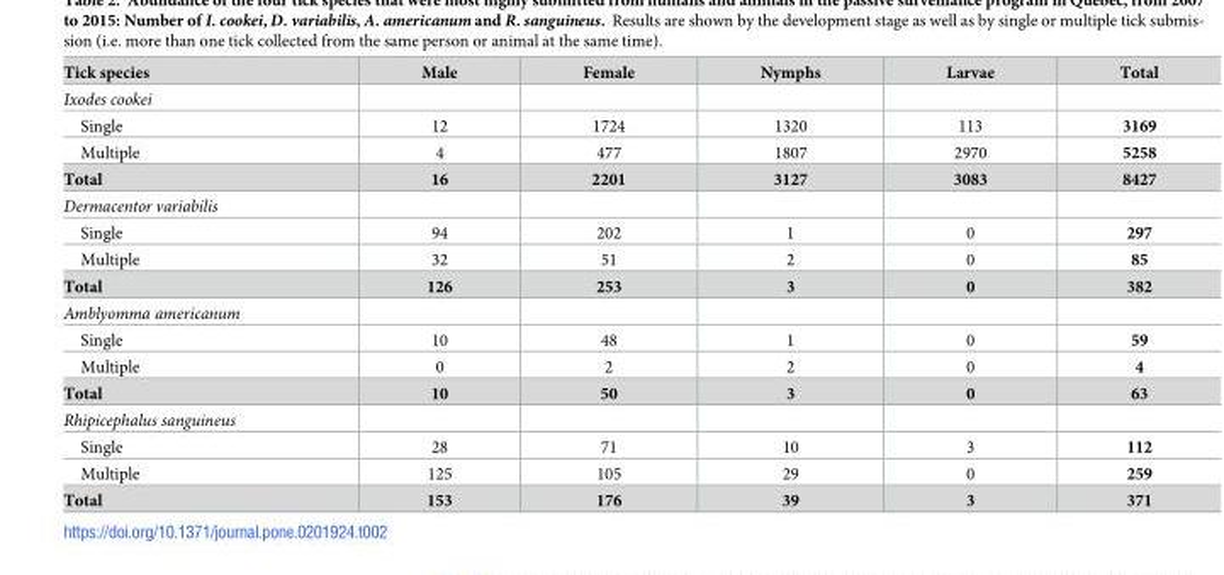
<table><thead><tr><td>Tick species</td><td>Male</td><td>Female</td><td>Nymphs</td><td>Larvae</td><td>Total</td></tr></thead><tbody><tr><td colspan="6">Ixodes cookei</td></tr><tr><td>Single</td><td>12</td><td>1724</td><td>1320</td><td>113</td><td>3169</td></tr><tr><td>Multiple</td><td>4</td><td>477</td><td>1807</td><td>2970</td><td>5258</td></tr><tr><td>Total</td><td>16</td><td>2201</td><td>3127</td><td>3083</td><td>8427</td></tr><tr><td colspan="6">Dermacentor variabilis</td></tr><tr><td>Single</td><td>94</td><td>202</td><td>1</td><td>0</td><td>297</td></tr><tr><td>Multiple</td><td>32</td><td>51</td><td>2</td><td>0</td><td>85</td></tr><tr><td>Total</td><td>126</td><td>253</td><td>3</td><td>0</td><td>382</td></tr><tr><td colspan="6">Amblyomma americanum</td></tr><tr><td>Single</td><td>10</td><td>48</td><td>1</td><td>0</td><td>59</td></tr><tr><td>Multiple</td><td>0</td><td>2</td><td>2</td><td>0</td><td>4</td></tr><tr><td>Total</td><td>10</td><td>50</td><td>3</td><td>0</td><td>63</td></tr><tr><td colspan="6">Rhipicephalus sanguineus</td></tr><tr><td>Single</td><td>28</td><td>71</td><td>10</td><td>3</td><td>112</td></tr><tr><td>Multiple</td><td>125</td><td>105</td><td>29</td><td>0</td><td>259</td></tr><tr><td>Total</td><td>153</td><td>176</td><td>39</td><td>3</td><td>371</td></tr></tbody></table>